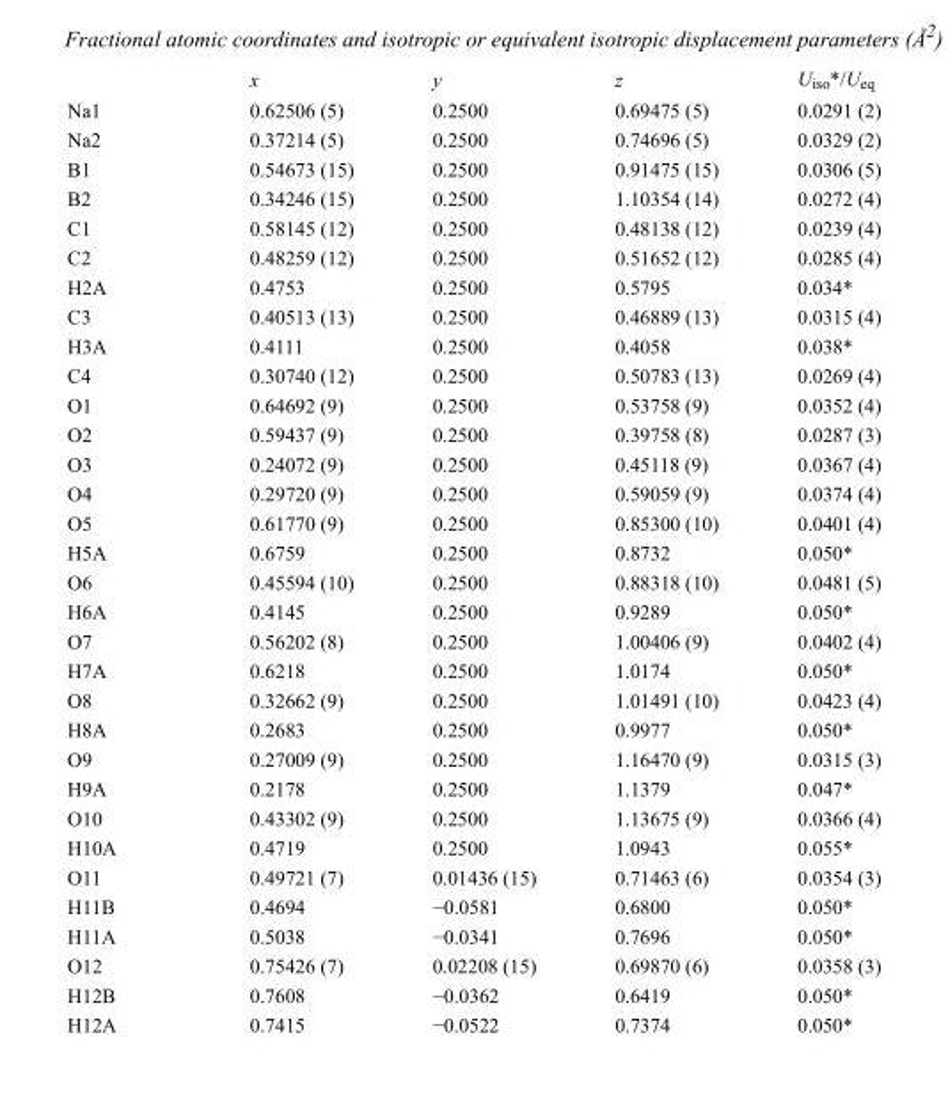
<table><thead><tr><td></td><td>x</td><td>y</td><td>z</td><td>U<sub>iso</sub>*/U<sub>eq</sub></td></tr></thead><tbody><tr><td>Na1</td><td>0.62506 (5)</td><td>0.2500</td><td>0.69475 (5)</td><td>0.0291 (2)</td></tr><tr><td>Na2</td><td>0.37214 (5)</td><td>0.2500</td><td>0.74696 (5)</td><td>0.0329 (2)</td></tr><tr><td>B1</td><td>0.54673 (15)</td><td>0.2500</td><td>0.91475 (15)</td><td>0.0306 (5)</td></tr><tr><td>B2</td><td>0.34246 (15)</td><td>0.2500</td><td>1.10354 (14)</td><td>0.0272 (4)</td></tr><tr><td>C1</td><td>0.58145 (12)</td><td>0.2500</td><td>0.48138 (12)</td><td>0.0239 (4)</td></tr><tr><td>C2</td><td>0.48259 (12)</td><td>0.2500</td><td>0.51652 (12)</td><td>0.0285 (4)</td></tr><tr><td>H2A</td><td>0.4753</td><td>0.2500</td><td>0.5795</td><td>0.034*</td></tr><tr><td>C3</td><td>0.40513 (13)</td><td>0.2500</td><td>0.46889 (13)</td><td>0.0315 (4)</td></tr><tr><td>H3A</td><td>0.4111</td><td>0.2500</td><td>0.4058</td><td>0.038*</td></tr><tr><td>C4</td><td>0.30740 (12)</td><td>0.2500</td><td>0.50783 (13)</td><td>0.0269 (4)</td></tr><tr><td>O1</td><td>0.64692 (9)</td><td>0.2500</td><td>0.53758 (9)</td><td>0.0352 (4)</td></tr><tr><td>O2</td><td>0.59437 (9)</td><td>0.2500</td><td>0.39758 (8)</td><td>0.0287 (3)</td></tr><tr><td>O3</td><td>0.24072 (9)</td><td>0.2500</td><td>0.45118 (9)</td><td>0.0367 (4)</td></tr><tr><td>O4</td><td>0.29720 (9)</td><td>0.2500</td><td>0.59059 (9)</td><td>0.0374 (4)</td></tr><tr><td>O5</td><td>0.61770 (9)</td><td>0.2500</td><td>0.85300 (10)</td><td>0.0401 (4)</td></tr><tr><td>H5A</td><td>0.6759</td><td>0.2500</td><td>0.8732</td><td>0.050*</td></tr><tr><td>O6</td><td>0.45594 (10)</td><td>0.2500</td><td>0.88318 (10)</td><td>0.0481 (5)</td></tr><tr><td>H6A</td><td>0.4145</td><td>0.2500</td><td>0.9289</td><td>0.050*</td></tr><tr><td>O7</td><td>0.56202 (8)</td><td>0.2500</td><td>1.00406 (9)</td><td>0.0402 (4)</td></tr><tr><td>H7A</td><td>0.6218</td><td>0.2500</td><td>1.0174</td><td>0.050*</td></tr><tr><td>O8</td><td>0.32662 (9)</td><td>0.2500</td><td>1.01491 (10)</td><td>0.0423 (4)</td></tr><tr><td>H8A</td><td>0.2683</td><td>0.2500</td><td>0.9977</td><td>0.050*</td></tr><tr><td>O9</td><td>0.27009 (9)</td><td>0.2500</td><td>1.16470 (9)</td><td>0.0315 (3)</td></tr><tr><td>H9A</td><td>0.2178</td><td>0.2500</td><td>1.1379</td><td>0.047*</td></tr><tr><td>O10</td><td>0.43302 (9)</td><td>0.2500</td><td>1.13675 (9)</td><td>0.0366 (4)</td></tr><tr><td>H10A</td><td>0.4719</td><td>0.2500</td><td>1.0943</td><td>0.055*</td></tr><tr><td>O11</td><td>0.49721 (7)</td><td>0.01436 (15)</td><td>0.71463 (6)</td><td>0.0354 (3)</td></tr><tr><td>H11B</td><td>0.4694</td><td>−0.0581</td><td>0.6800</td><td>0.050*</td></tr><tr><td>H11A</td><td>0.5038</td><td>−0.0341</td><td>0.7696</td><td>0.050*</td></tr><tr><td>O12</td><td>0.75426 (7)</td><td>0.02208 (15)</td><td>0.69870 (6)</td><td>0.0358 (3)</td></tr><tr><td>H12B</td><td>0.7608</td><td>−0.0362</td><td>0.6419</td><td>0.050*</td></tr><tr><td>H12A</td><td>0.7415</td><td>−0.0522</td><td>0.7374</td><td>0.050*</td></tr></tbody></table>